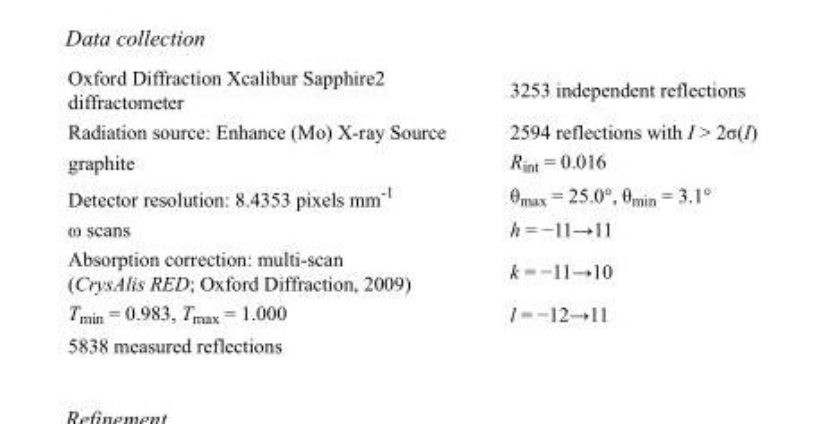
<table><tbody><tr><td>Oxford Diffraction Xcalibur Sapphire2 diffractometer</td><td>3253 independent reflections</td></tr><tr><td>Radiation source: Enhance (Mo) X-ray Source</td><td>2594 reflections with I &gt; 2σ(I)</td></tr><tr><td>graphite</td><td>R<sub>int</sub> = 0.016</td></tr><tr><td>Detector resolution: 8.4353 pixels mm<sup>-1</sup></td><td>θ<sub>max</sub> = 25.0°, θ<sub>min</sub> = 3.1°</td></tr><tr><td>ω scans</td><td>h = −11→11</td></tr><tr><td>Absorption correction: multi-scan (CrysAlis RED; Oxford Diffraction, 2009)</td><td>k = −11→10</td></tr><tr><td>T<sub>min</sub> = 0.983, T<sub>max</sub> = 1.000</td><td>l = −12→11</td></tr><tr><td>5838 measured reflections</td><td></td></tr></tbody></table>